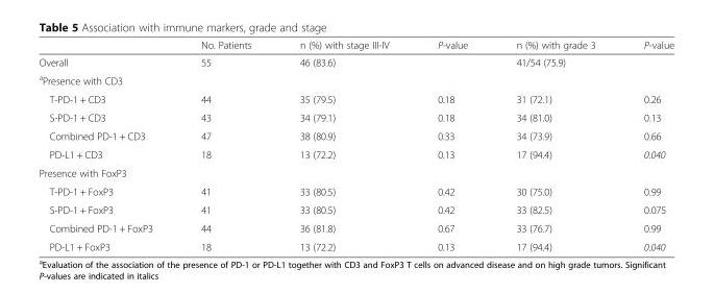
<table><thead><tr><td></td><td>No. Patients</td><td>n (%) with stage III-IV</td><td>P-value</td><td>n (%) with grade 3</td><td>P-value</td></tr></thead><tbody><tr><td>Overall</td><td>55</td><td>46 (83.6)</td><td></td><td>41/54 (75.9)</td><td></td></tr><tr><td colspan="6"><sup>a</sup>Presence with CD3</td></tr><tr><td>T-PD-1 + CD3</td><td>44</td><td>35 (79.5)</td><td>0.18</td><td>31 (72.1)</td><td>0.26</td></tr><tr><td>S-PD-1 + CD3</td><td>43</td><td>34 (79.1)</td><td>0.18</td><td>34 (81.0)</td><td>0.13</td></tr><tr><td>Combined PD-1 + CD3</td><td>47</td><td>38 (80.9)</td><td>0.33</td><td>34 (73.9)</td><td>0.66</td></tr><tr><td>PD-L1 + CD3</td><td>18</td><td>13 (72.2)</td><td>0.13</td><td>17 (94.4)</td><td>0.040</td></tr><tr><td colspan="6">Presence with FoxP3</td></tr><tr><td>T-PD-1 + FoxP3</td><td>41</td><td>33 (80.5)</td><td>0.42</td><td>30 (75.0)</td><td>0.99</td></tr><tr><td>S-PD-1 + FoxP3</td><td>41</td><td>33 (80.5)</td><td>0.42</td><td>33 (82.5)</td><td>0.075</td></tr><tr><td>Combined PD-1 + FoxP3</td><td>44</td><td>36 (81.8)</td><td>0.67</td><td>33 (76.7)</td><td>0.99</td></tr><tr><td>PD-L1 + FoxP3</td><td>18</td><td>13 (72.2)</td><td>0.13</td><td>17 (94.4)</td><td>0.040</td></tr></tbody></table>